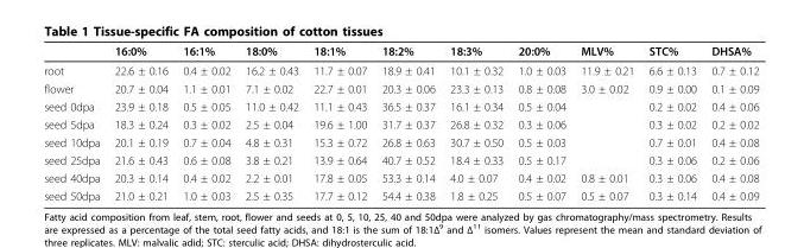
<table><thead><tr><td></td><td>16:0%</td><td>16:1%</td><td>18:0%</td><td>18:1%</td><td>18:2%</td><td>18:3%</td><td>20:0%</td><td>MLV%</td><td>STC%</td><td>DHSA%</td></tr></thead><tbody><tr><td>root</td><td>22.6 ± 0.16</td><td>0.4 ± 0.02</td><td>16.2 ± 0.43</td><td>11.7 ± 0.07</td><td>18.9 ± 0.41</td><td>10.1 ± 0.32</td><td>1.0 ± 0.03</td><td>11.9 ± 0.21</td><td>6.6 ± 0.13</td><td>0.7 ± 0.12</td></tr><tr><td>flower</td><td>20.7 ± 0.04</td><td>1.1 ± 0.01</td><td>7.1 ± 0.02</td><td>22.7 ± 0.01</td><td>20.3 ± 0.06</td><td>23.3 ± 0.13</td><td>0.8 ± 0.08</td><td>3.0 ± 0.02</td><td>0.9 ± 0.00</td><td>0.1 ± 0.09</td></tr><tr><td>seed 0dpa</td><td>23.9 ± 0.18</td><td>0.5 ± 0.05</td><td>11.0 ± 0.42</td><td>11.1 ± 0.43</td><td>36.5 ± 0.37</td><td>16.1 ± 0.34</td><td>0.5 ± 0.04</td><td></td><td>0.2 ± 0.02</td><td>0.4 ± 0.06</td></tr><tr><td>seed 5dpa</td><td>18.3 ± 0.24</td><td>0.3 ± 0.02</td><td>2.5 ± 0.04</td><td>19.6 ± 1.00</td><td>31.7 ± 0.37</td><td>26.8 ± 0.32</td><td>0.3 ± 0.06</td><td></td><td>0.3 ± 0.02</td><td>0.2 ± 0.02</td></tr><tr><td>seed 10dpa</td><td>20.1 ± 0.19</td><td>0.7 ± 0.04</td><td>4.8 ± 0.31</td><td>15.3 ± 0.72</td><td>26.8 ± 0.63</td><td>30.7 ± 0.50</td><td>0.5 ± 0.03</td><td></td><td>0.7 ± 0.01</td><td>0.4 ± 0.08</td></tr><tr><td>seed 25dpa</td><td>21.6 ± 0.43</td><td>0.6 ± 0.08</td><td>3.8 ± 0.21</td><td>13.9 ± 0.64</td><td>40.7 ± 0.52</td><td>18.4 ± 0.33</td><td>0.5 ± 0.17</td><td></td><td>0.3 ± 0.06</td><td>0.2 ± 0.06</td></tr><tr><td>seed 40dpa</td><td>20.3 ± 0.14</td><td>0.4 ± 0.02</td><td>2.2 ± 0.01</td><td>17.8 ± 0.05</td><td>53.3 ± 0.14</td><td>4.0 ± 0.07</td><td>0.4 ± 0.02</td><td>0.8 ± 0.01</td><td>0.3 ± 0.06</td><td>0.4 ± 0.08</td></tr><tr><td>seed 50dpa</td><td>21.0 ± 0.21</td><td>1.0 ± 0.03</td><td>2.5 ± 0.35</td><td>17.7 ± 0.12</td><td>54.4 ± 0.38</td><td>1.8 ± 0.25</td><td>0.5 ± 0.07</td><td>0.5 ± 0.07</td><td>0.3 ± 0.14</td><td>0.4 ± 0.09</td></tr></tbody></table>